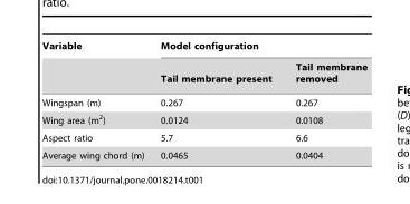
<table><thead><tr><td rowspan="2">Variable</td><td colspan="2">Model configuration</td></tr><tr><td>Tail membrane present</td><td>Tail membrane removed</td></tr></thead><tbody><tr><td>Wingspan (m)</td><td>0.267</td><td>0.267</td></tr><tr><td>Wing area (m<sup>2</sup>)</td><td>0.0124</td><td>0.0108</td></tr><tr><td>Aspect ratio</td><td>5.7</td><td>6.6</td></tr><tr><td>Average wing chord (m)</td><td>0.0465</td><td>0.0404</td></tr></tbody></table>